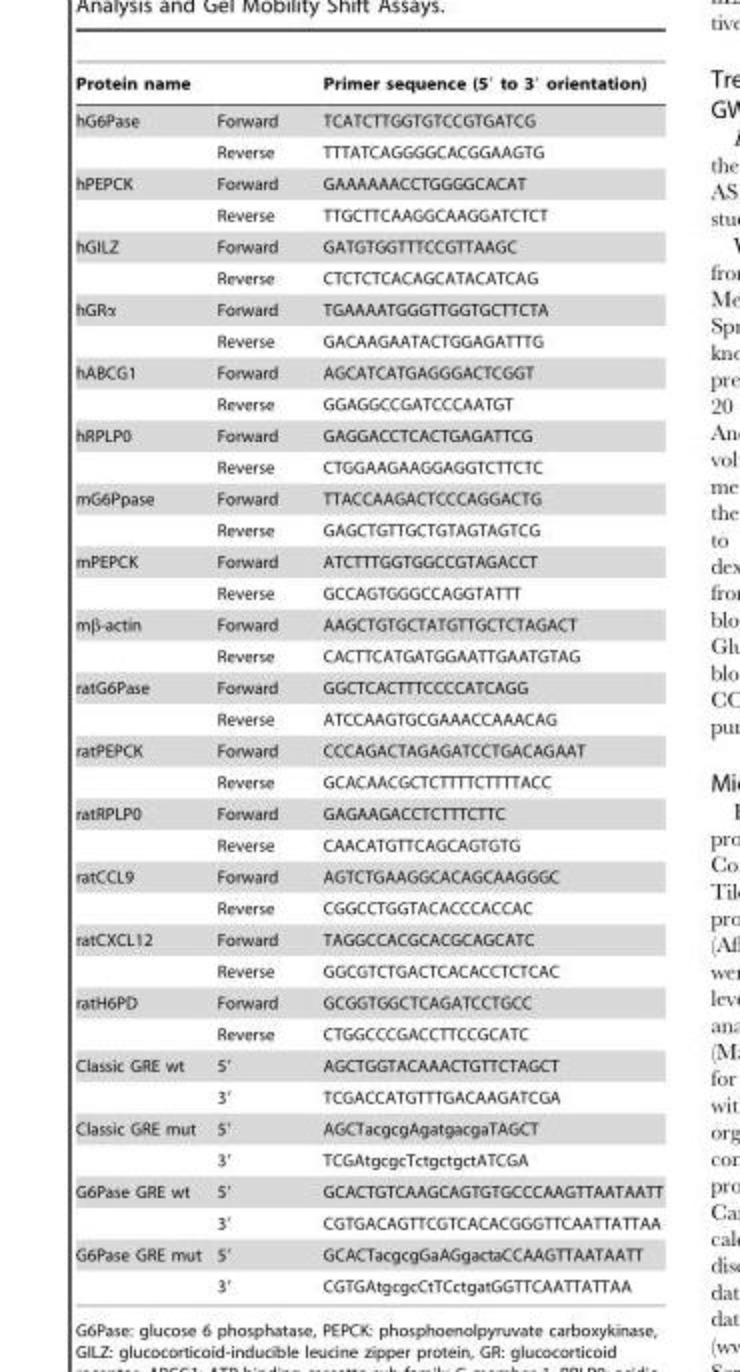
<table><thead><tr><td>Protein name</td><td></td><td>Primer sequence (5′ to 3′ orientation)</td></tr></thead><tbody><tr><td rowspan="2">hG6Pase</td><td>Forward</td><td>TCATCTTGGTGTCCGTGATCG</td></tr><tr><td>Reverse</td><td>TTTATCAGGGGCACGGAAGTG</td></tr><tr><td rowspan="2">hPEPCK</td><td>Forward</td><td>GAAAAAACCTGGGGCACAT</td></tr><tr><td>Reverse</td><td>TTGCTTCAAGGCAAGGATCTCT</td></tr><tr><td rowspan="2">hGILZ</td><td>Forward</td><td>GATGTGGTTTCCGTTAAGC</td></tr><tr><td>Reverse</td><td>CTCTCTCACAGCATACATCAG</td></tr><tr><td rowspan="2">hGRα</td><td>Forward</td><td>TGAAAATGGGTTGGTGCTTCTA</td></tr><tr><td>Reverse</td><td>GACAAGAATACTGGAGATTTG</td></tr><tr><td rowspan="2">hABCG1</td><td>Forward</td><td>AGCATCATGAGGGACTCGGT</td></tr><tr><td>Reverse</td><td>GGAGGCCGATCCCAATGT</td></tr><tr><td rowspan="2">hRPLP0</td><td>Forward</td><td>GAGGACCTCACTGAGATTCG</td></tr><tr><td>Reverse</td><td>CTGGAAGAAGGAGGTCTTCTC</td></tr><tr><td rowspan="2">mG6Ppase</td><td>Forward</td><td>TTACCAAGACTCCCAGGACTG</td></tr><tr><td>Reverse</td><td>GAGCTGTTGCTGTAGTAGTCG</td></tr><tr><td rowspan="2">mPEPCK</td><td>Forward</td><td>ATCTTTGGTGGCCGTAGACCT</td></tr><tr><td>Reverse</td><td>GCCAGTGGGCCAGGTATTT</td></tr><tr><td rowspan="2">mβ-actin</td><td>Forward</td><td>AAGCTGTGCTATGTTGCTCTAGACT</td></tr><tr><td>Reverse</td><td>CACTTCATGATGGAATTGAATGTAG</td></tr><tr><td rowspan="2">ratG6Pase</td><td>Forward</td><td>GGCTCACTTTCCCCATCAGG</td></tr><tr><td>Reverse</td><td>ATCCAAGTGCGAAACCAAACAG</td></tr><tr><td rowspan="2">ratPEPCK</td><td>Forward</td><td>CCCAGACTAGAGATCCTGACAGAAT</td></tr><tr><td>Reverse</td><td>GCACAACGCTCTTTTCTTTTACC</td></tr><tr><td rowspan="2">ratRPLP0</td><td>Forward</td><td>GAGAAGACCTCTTTCTTC</td></tr><tr><td>Reverse</td><td>CAACATGTTCAGCAGTGTG</td></tr><tr><td rowspan="2">ratCCL9</td><td>Forward</td><td>AGTCTGAAGGCACAGCAAGGGC</td></tr><tr><td>Reverse</td><td>CGGCCTGGTACACCCACCAC</td></tr><tr><td rowspan="2">ratCXCL12</td><td>Forward</td><td>TAGGCCACGCACGCAGCATC</td></tr><tr><td>Reverse</td><td>GGCGTCTGACTCACACCTCTCAC</td></tr><tr><td rowspan="2">ratH6PD</td><td>Forward</td><td>GCGGTGGCTCAGATCCTGCC</td></tr><tr><td>Reverse</td><td>CTGGCCCGACCTTCCGCATC</td></tr><tr><td rowspan="2">Classic GRE wt</td><td>5′</td><td>AGCTGGTACAAACTGTTCTAGCT</td></tr><tr><td>3′</td><td>TCGACCATGTTTGACAAGATCGA</td></tr><tr><td rowspan="2">Classic GRE mut</td><td>5′</td><td>AGCTacgcgAgatgacgaTAGCT</td></tr><tr><td>3′</td><td>TCGAtgcgcTctgctgctATCGA</td></tr><tr><td rowspan="2">G6Pase GRE wt</td><td>5′</td><td>GCACTGTCAAGCAGTGTGCCCAAGTTAATAATT</td></tr><tr><td>3′</td><td>CGTGACAGTTCGTCACACGGGTTCAATTATTAA</td></tr><tr><td rowspan="2">G6Pase GRE mut</td><td>5′</td><td>GCACTacgcgGaAGgactaCCAAGTTAATAATT</td></tr><tr><td>3′</td><td>CGTGAtgcgcCtTCctgatGGTTCAATTATTAA</td></tr></tbody></table>